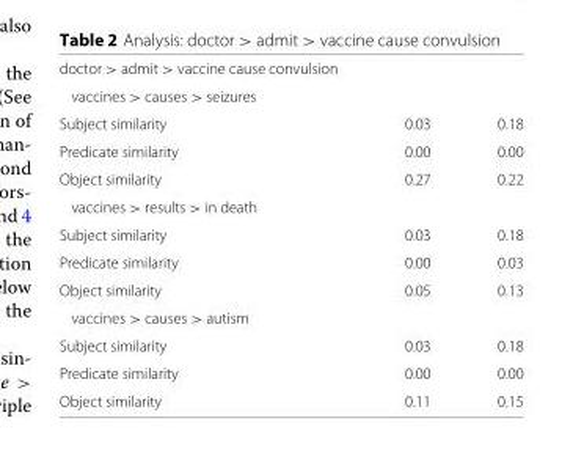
<table><tbody><tr><td colspan="3">doctor &gt; admit &gt; vaccine cause convulsion</td></tr><tr><td colspan="3">vaccines &gt; causes &gt; seizures</td></tr><tr><td>Subject similarity</td><td>0.03</td><td>0.18</td></tr><tr><td>Predicate similarity</td><td>0.00</td><td>0.00</td></tr><tr><td>Object similarity</td><td>0.27</td><td>0.22</td></tr><tr><td colspan="3">vaccines &gt; results &gt; in death</td></tr><tr><td>Subject similarity</td><td>0.03</td><td>0.18</td></tr><tr><td>Predicate similarity</td><td>0.00</td><td>0.03</td></tr><tr><td>Object similarity</td><td>0.05</td><td>0.13</td></tr><tr><td colspan="3">vaccines &gt; causes &gt; autism</td></tr><tr><td>Subject similarity</td><td>0.03</td><td>0.18</td></tr><tr><td>Predicate similarity</td><td>0.00</td><td>0.00</td></tr><tr><td>Object similarity</td><td>0.11</td><td>0.15</td></tr></tbody></table>